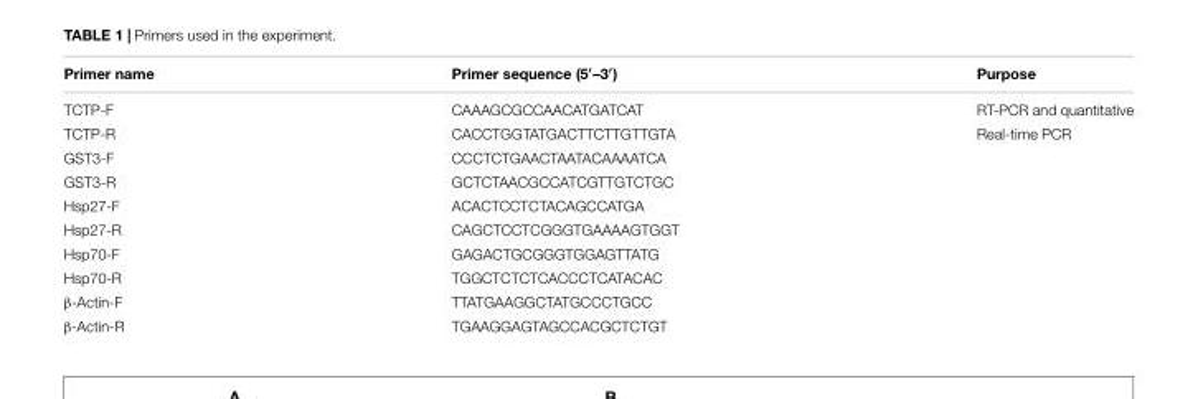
<table><thead><tr><td>Primer name</td><td>Primer sequence (5′–3′)</td><td>Purpose</td></tr></thead><tbody><tr><td>TCTP-F</td><td>CAAAGCGCCAACATGATCAT</td><td>RT-PCR and quantitative</td></tr><tr><td>TCTP-R</td><td>CACCTGGTATGACTTCTTGTTGTA</td><td>Real-time PCR</td></tr><tr><td>GST3-F</td><td>CCCTCTGAACTAATACAAAATCA</td><td></td></tr><tr><td>GST3-R</td><td>GCTCTAACGCCATCGTTGTCTGC</td><td></td></tr><tr><td>Hsp27-F</td><td>ACACTCCTCTACAGCCATGA</td><td></td></tr><tr><td>Hsp27-R</td><td>CAGCTCCTCGGGTGAAAAGTGGT</td><td></td></tr><tr><td>Hsp70-F</td><td>GAGACTGCGGGTGGAGTTATG</td><td></td></tr><tr><td>Hsp70-R</td><td>TGGCTCTCTCACCCTCATACAC</td><td></td></tr><tr><td>β-Actin-F</td><td>TTATGAAGGCTATGCCCTGCC</td><td></td></tr><tr><td>β-Actin-R</td><td>TGAAGGAGTAGCCACGCTCTGT</td><td></td></tr></tbody></table>